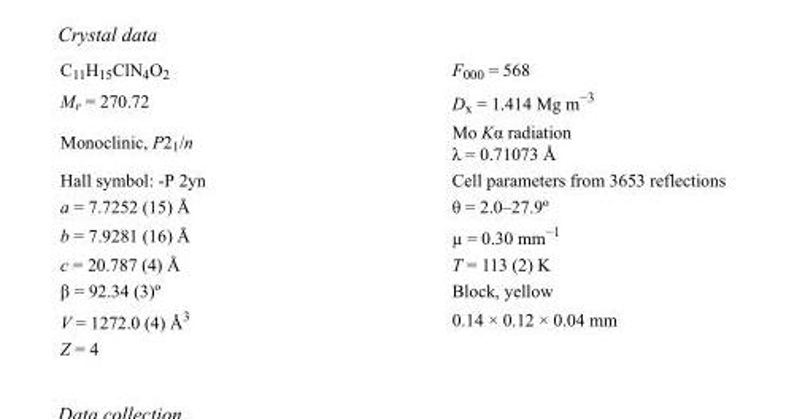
<table><tbody><tr><td>C<sub>11</sub>H<sub>15</sub>ClN<sub>4</sub>O<sub>2</sub></td><td>F<sub>000</sub> = 568</td></tr><tr><td>M<sub>r</sub> = 270.72</td><td>D<sub>x</sub> = 1.414 Mg m<sup>−3</sup></td></tr><tr><td>Monoclinic, P2<sub>1</sub>/n</td><td>Mo Kα radiation λ = 0.71073 Å</td></tr><tr><td>Hall symbol: -P 2yn</td><td>Cell parameters from 3653 reflections</td></tr><tr><td>a = 7.7252 (15) Å</td><td>θ = 2.0–27.9º</td></tr><tr><td>b = 7.9281 (16) Å</td><td>µ = 0.30 mm<sup>−1</sup></td></tr><tr><td>c = 20.787 (4) Å</td><td>T = 113 (2) K</td></tr><tr><td>β = 92.34 (3)º</td><td>Block, yellow</td></tr><tr><td>V = 1272.0 (4) Å<sup>3</sup></td><td>0.14 × 0.12 × 0.04 mm</td></tr><tr><td>Z = 4</td><td></td></tr></tbody></table>